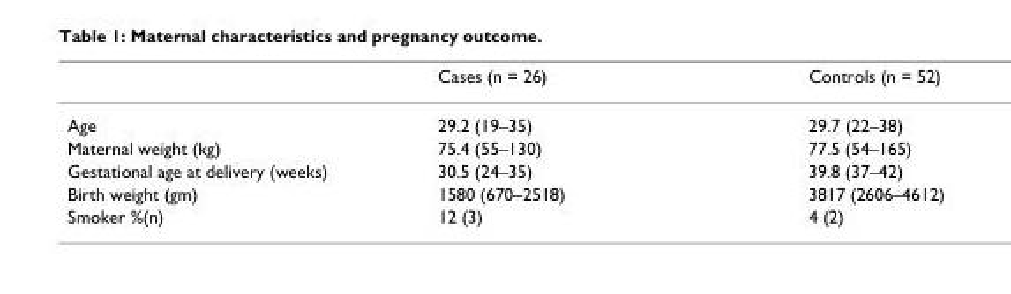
<table><thead><tr><td></td><td>Cases (n = 26)</td><td>Controls (n = 52)</td></tr></thead><tbody><tr><td>Age</td><td>29.2 (19–35)</td><td>29.7 (22–38)</td></tr><tr><td>Maternal weight (kg)</td><td>75.4 (55–130)</td><td>77.5 (54–165)</td></tr><tr><td>Gestational age at delivery (weeks)</td><td>30.5 (24–35)</td><td>39.8 (37–42)</td></tr><tr><td>Birth weight (gm)</td><td>1580 (670–2518)</td><td>3817 (2606–4612)</td></tr><tr><td>Smoker %(n)</td><td>12 (3)</td><td>4 (2)</td></tr></tbody></table>